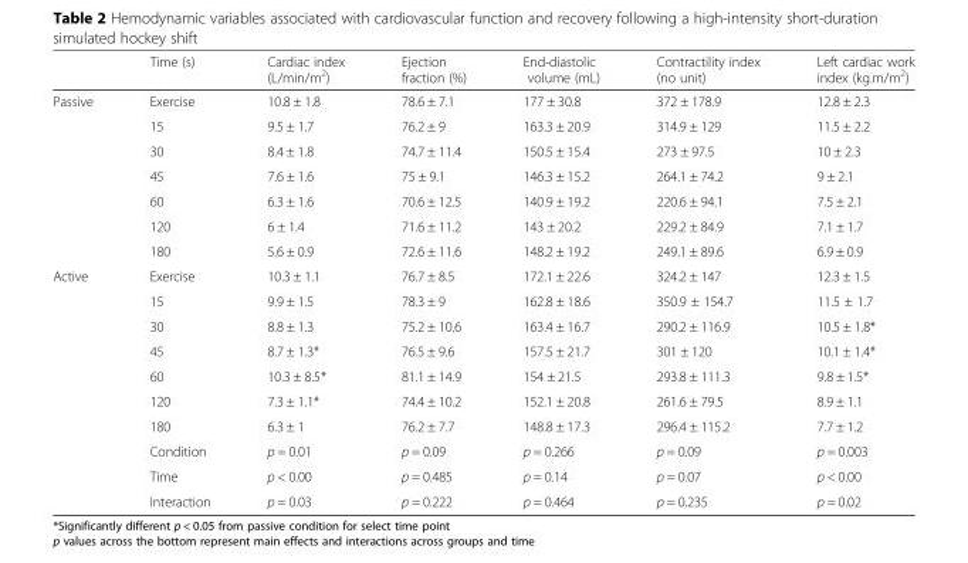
<table><thead><tr><td></td><td>Time (s)</td><td>Cardiac index (L/min/m<sup>2</sup>)</td><td>Ejection fraction (%)</td><td>End-diastolic volume (mL)</td><td>Contractility index (no unit)</td><td>Left cardiac work index (kg.m/m<sup>2</sup>)</td></tr></thead><tbody><tr><td rowspan="7">Passive</td><td>Exercise</td><td>10.8 ± 1.8</td><td>78.6 ± 7.1</td><td>177 ± 30.8</td><td>372 ± 178.9</td><td>12.8 ± 2.3</td></tr><tr><td>15</td><td>9.5 ± 1.7</td><td>76.2 ± 9</td><td>163.3 ± 20.9</td><td>314.9 ± 129</td><td>11.5 ± 2.2</td></tr><tr><td>30</td><td>8.4 ± 1.8</td><td>74.7 ± 11.4</td><td>150.5 ± 15.4</td><td>273 ± 97.5</td><td>10 ± 2.3</td></tr><tr><td>45</td><td>7.6 ± 1.6</td><td>75 ± 9.1</td><td>146.3 ± 15.2</td><td>264.1 ± 74.2</td><td>9 ± 2.1</td></tr><tr><td>60</td><td>6.3 ± 1.6</td><td>70.6 ± 12.5</td><td>140.9 ± 19.2</td><td>220.6 ± 94.1</td><td>7.5 ± 2.1</td></tr><tr><td>120</td><td>6 ± 1.4</td><td>71.6 ± 11.2</td><td>143 ± 20.2</td><td>229.2 ± 84.9</td><td>7.1 ± 1.7</td></tr><tr><td>180</td><td>5.6 ± 0.9</td><td>72.6 ± 11.6</td><td>148.2 ± 19.2</td><td>249.1 ± 89.6</td><td>6.9 ± 0.9</td></tr><tr><td rowspan="10">Active</td><td>Exercise</td><td>10.3 ± 1.1</td><td>76.7 ± 8.5</td><td>172.1 ± 22.6</td><td>324.2 ± 147</td><td>12.3 ± 1.5</td></tr><tr><td>15</td><td>9.9 ± 1.5</td><td>78.3 ± 9</td><td>162.8 ± 18.6</td><td>350.9 ± 154.7</td><td>11.5 ± 1.7</td></tr><tr><td>30</td><td>8.8 ± 1.3</td><td>75.2 ± 10.6</td><td>163.4 ± 16.7</td><td>290.2 ± 116.9</td><td>10.5 ± 1.8*</td></tr><tr><td>45</td><td>8.7 ± 1.3*</td><td>76.5 ± 9.6</td><td>157.5 ± 21.7</td><td>301 ± 120</td><td>10.1 ± 1.4*</td></tr><tr><td>60</td><td>10.3 ± 8.5*</td><td>81.1 ± 14.9</td><td>154 ± 21.5</td><td>293.8 ± 111.3</td><td>9.8 ± 1.5*</td></tr><tr><td>120</td><td>7.3 ± 1.1*</td><td>74.4 ± 10.2</td><td>152.1 ± 20.8</td><td>261.6 ± 79.5</td><td>8.9 ± 1.1</td></tr><tr><td>180</td><td>6.3 ± 1</td><td>76.2 ± 7.7</td><td>148.8 ± 17.3</td><td>296.4 ± 115.2</td><td>7.7 ± 1.2</td></tr><tr><td>Condition</td><td>p = 0.01</td><td>p = 0.09</td><td>p = 0.266</td><td>p = 0.09</td><td>p = 0.003</td></tr><tr><td>Time</td><td>p &lt; 0.00</td><td>p = 0.485</td><td>p = 0.14</td><td>p = 0.07</td><td>p &lt; 0.00</td></tr><tr><td>Interaction</td><td>p = 0.03</td><td>p = 0.222</td><td>p = 0.464</td><td>p = 0.235</td><td>p = 0.02</td></tr></tbody></table>